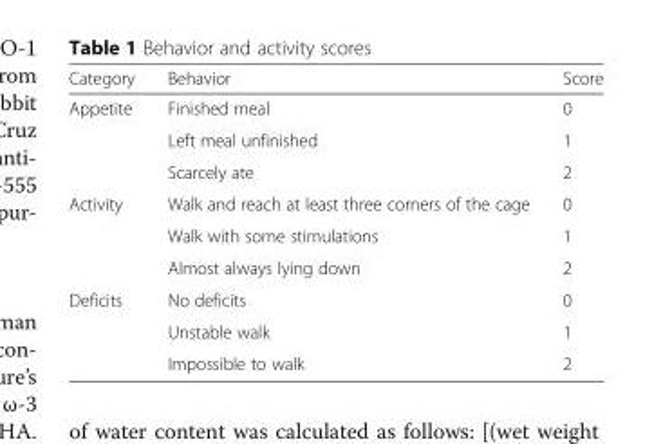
<table><thead><tr><td>Category</td><td>Behavior</td><td>Score</td></tr></thead><tbody><tr><td rowspan="3">Appetite</td><td>Finished meal</td><td>0</td></tr><tr><td>Left meal unfinished</td><td>1</td></tr><tr><td>Scarcely ate</td><td>2</td></tr><tr><td rowspan="3">Activity</td><td>Walk and reach at least three corners of the cage</td><td>0</td></tr><tr><td>Walk with some stimulations</td><td>1</td></tr><tr><td>Almost always lying down</td><td>2</td></tr><tr><td rowspan="3">Deficits</td><td>No deficits</td><td>0</td></tr><tr><td>Unstable walk</td><td>1</td></tr><tr><td>Impossible to walk</td><td>2</td></tr></tbody></table>